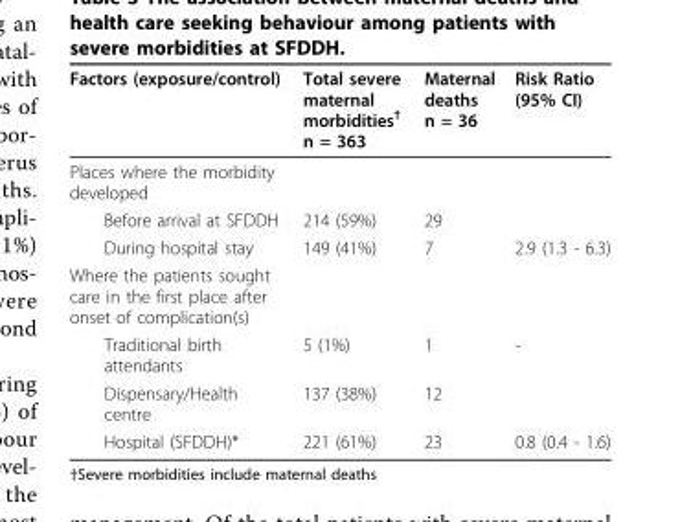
<table><thead><tr><td>Factors (exposure/control)</td><td>Total severe maternal morbidities<sup>†</sup> n = 363</td><td>Maternal deaths n = 36</td><td>Risk Ratio (95% CI)</td></tr></thead><tbody><tr><td colspan="4">Places where the morbidity developed</td></tr><tr><td>Before arrival at SFDDH</td><td>214 (59%)</td><td>29</td><td></td></tr><tr><td>During hospital stay</td><td>149 (41%)</td><td>7</td><td>2.9 (1.3 - 6.3)</td></tr><tr><td colspan="4">Where the patients sought care in the first place after onset of complication(s)</td></tr><tr><td>Traditional birth attendants</td><td>5 (1%)</td><td>1</td><td>-</td></tr><tr><td>Dispensary/Health centre</td><td>137 (38%)</td><td>12</td><td></td></tr><tr><td>Hospital (SFDDH)*</td><td>221 (61%)</td><td>23</td><td>0.8 (0.4 - 1.6)</td></tr></tbody></table>